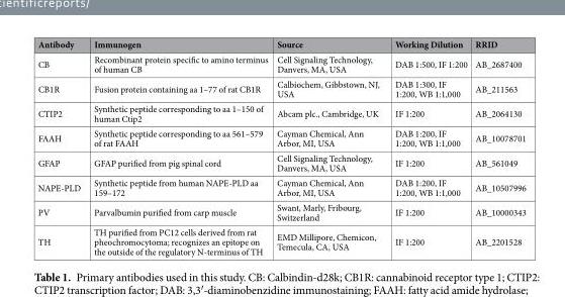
<table><thead><tr><td>Antibody</td><td>Immunogen</td><td>Source</td><td>Working Dilution</td><td>RRID</td></tr></thead><tbody><tr><td>CB</td><td>Recombinant protein specific to amino terminus of human CB</td><td>Cell Signaling Technology, Danvers, MA, USA</td><td>DAB 1:500, IF 1:200</td><td>AB_2687400</td></tr><tr><td>CB1R</td><td>Fusion protein containing aa 1–77 of rat CB1R</td><td>Calbiochem, Gibbstown, NJ, USA</td><td>DAB 1:300, IF 1:200, WB 1:1,000</td><td>AB_211563</td></tr><tr><td>CTIP2</td><td>Synthetic peptide corresponding to aa 1–150 of human Ctip2</td><td>Abcam plc., Cambridge, UK</td><td>IF 1:200</td><td>AB_2064130</td></tr><tr><td>FAAH</td><td>Synthetic peptide corresponding to aa 561–579 of rat FAAH</td><td>Cayman Chemical, Ann Arbor, MI, USA</td><td>DAB 1:200, IF 1:200, WB 1:1,000</td><td>AB_10078701</td></tr><tr><td>GFAP</td><td>GFAP purified from pig spinal cord</td><td>Cell Signaling Technology, Danvers, MA, USA</td><td>IF 1:200</td><td>AB_561049</td></tr><tr><td>NAPE-PLD</td><td>Synthetic peptide from human NAPE-PLD aa 159–172</td><td>Cayman Chemical, Ann Arbor, MI, USA</td><td>DAB 1:200, IF 1:200, WB 1:1,000</td><td>AB_10507996</td></tr><tr><td>PV</td><td>Parvalbumin purified from carp muscle</td><td>Swant, Marly, Fribourg, Switzerland</td><td>IF 1:200</td><td>AB_10000343</td></tr><tr><td>TH</td><td>TH purified from PC12 cells derived from rat pheochromocytoma; recognizes an epitope on the outside of the regulatory N-terminus of TH</td><td>EMD Millipore, Chemicon, Temecula, CA, USA</td><td>IF 1:200</td><td>AB_2201528</td></tr></tbody></table>